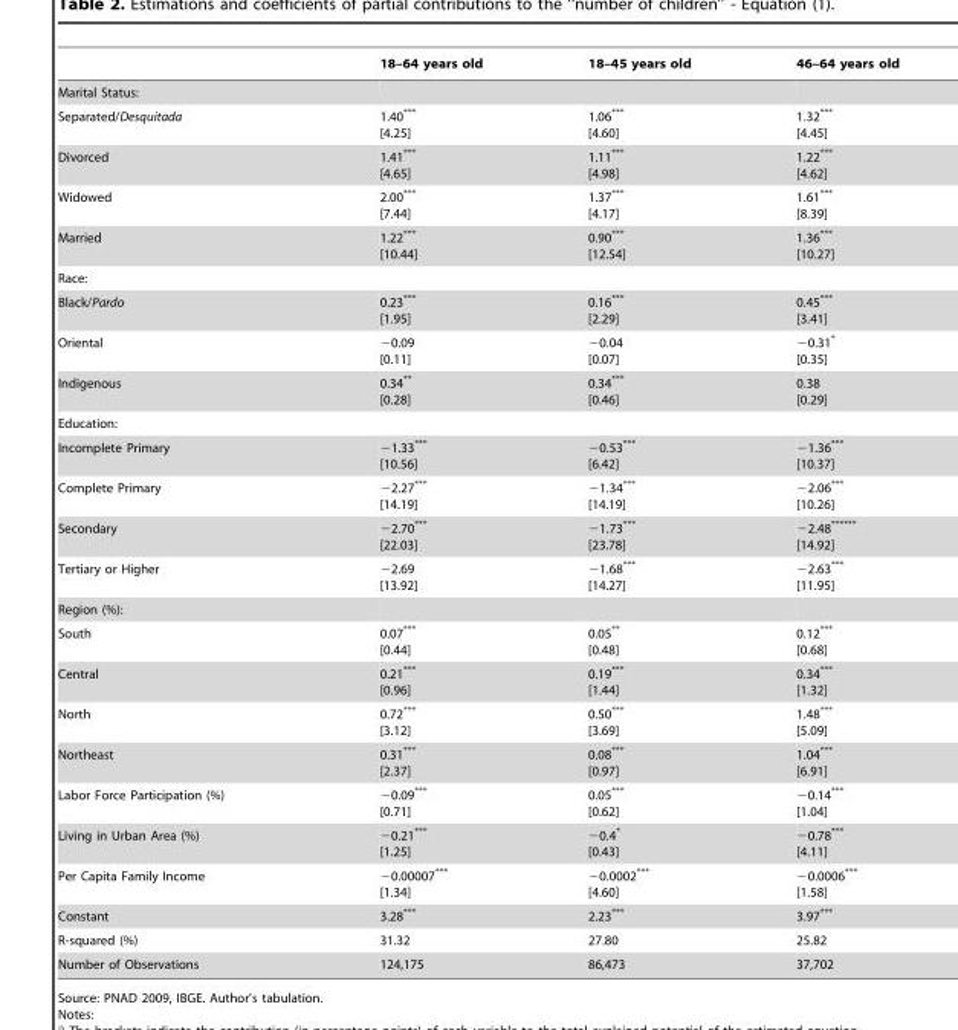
<table><thead><tr><td></td><td>18–64 years old</td><td>18–45 years old</td><td>46–64 years old</td></tr></thead><tbody><tr><td colspan="4">Marital Status:</td></tr><tr><td>Separated/Desquitada</td><td>1.40*** [4.25]</td><td>1.06*** [4.60]</td><td>1.32*** [4.45]</td></tr><tr><td>Divorced</td><td>1.41*** [4.65]</td><td>1.11*** [4.98]</td><td>1.22*** [4.62]</td></tr><tr><td>Widowed</td><td>2.00*** [7.44]</td><td>1.37*** [4.17]</td><td>1.61*** [8.39]</td></tr><tr><td>Married</td><td>1.22*** [10.44]</td><td>0.90*** [12.54]</td><td>1.36*** [10.27]</td></tr><tr><td colspan="4">Race:</td></tr><tr><td>Black/Pardo</td><td>0.23*** [1.95]</td><td>0.16*** [2.29]</td><td>0.45*** [3.41]</td></tr><tr><td>Oriental</td><td>−0.09 [0.11]</td><td>−0.04 [0.07]</td><td>−0.31* [0.35]</td></tr><tr><td>Indigenous</td><td>0.34** [0.28]</td><td>0.34*** [0.46]</td><td>0.38 [0.29]</td></tr><tr><td colspan="4">Education:</td></tr><tr><td>Incomplete Primary</td><td>−1.33*** [10.56]</td><td>−0.53*** [6.42]</td><td>−1.36*** [10.37]</td></tr><tr><td>Complete Primary</td><td>−2.27*** [14.19]</td><td>−1.34*** [14.19]</td><td>−2.06*** [10.26]</td></tr><tr><td>Secondary</td><td>−2.70*** [22.03]</td><td>−1.73*** [23.78]</td><td>−2.48****** [14.92]</td></tr><tr><td>Tertiary or Higher</td><td>−2.69 [13.92]</td><td>−1.68*** [14.27]</td><td>−2.63*** [11.95]</td></tr><tr><td colspan="4">Region (%):</td></tr><tr><td>South</td><td>0.07*** [0.44]</td><td>0.05** [0.48]</td><td>0.12*** [0.68]</td></tr><tr><td>Central</td><td>0.21*** [0.96]</td><td>0.19*** [1.44]</td><td>0.34*** [1.32]</td></tr><tr><td>North</td><td>0.72*** [3.12]</td><td>0.50*** [3.69]</td><td>1.48*** [5.09]</td></tr><tr><td>Northeast</td><td>0.31*** [2.37]</td><td>0.08*** [0.97]</td><td>1.04*** [6.91]</td></tr><tr><td>Labor Force Participation (%)</td><td>−0.09*** [0.71]</td><td>0.05*** [0.62]</td><td>−0.14*** [1.04]</td></tr><tr><td>Living in Urban Area (%)</td><td>−0.21*** [1.25]</td><td>−0.4* [0.43]</td><td>−0.78*** [4.11]</td></tr><tr><td>Per Capita Family Income</td><td>−0.00007*** [1.34]</td><td>−0.0002*** [4.60]</td><td>−0.0006*** [1.58]</td></tr><tr><td>Constant</td><td>3.28***</td><td>2.23***</td><td>3.97***</td></tr><tr><td>R-squared (%)</td><td>31.32</td><td>27.80</td><td>25.82</td></tr><tr><td>Number of Observations</td><td>124,175</td><td>86,473</td><td>37,702</td></tr></tbody></table>